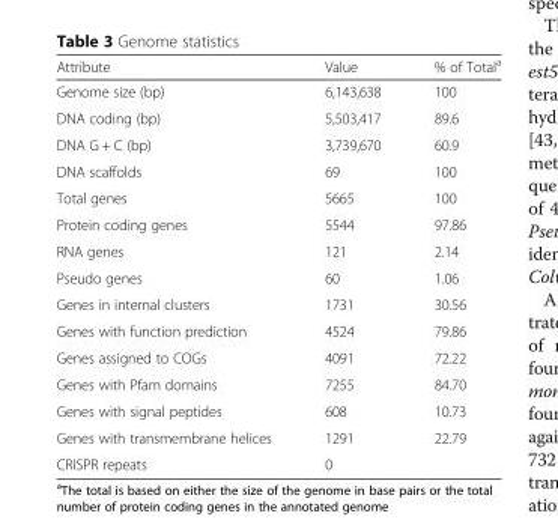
<table><thead><tr><td>Attribute</td><td>Value</td><td>% of Total<sup>a</sup></td></tr></thead><tbody><tr><td>Genome size (bp)</td><td>6,143,638</td><td>100</td></tr><tr><td>DNA coding (bp)</td><td>5,503,417</td><td>89.6</td></tr><tr><td>DNA G + C (bp)</td><td>3,739,670</td><td>60.9</td></tr><tr><td>DNA scaffolds</td><td>69</td><td>100</td></tr><tr><td>Total genes</td><td>5665</td><td>100</td></tr><tr><td>Protein coding genes</td><td>5544</td><td>97.86</td></tr><tr><td>RNA genes</td><td>121</td><td>2.14</td></tr><tr><td>Pseudo genes</td><td>60</td><td>1.06</td></tr><tr><td>Genes in internal clusters</td><td>1731</td><td>30.56</td></tr><tr><td>Genes with function prediction</td><td>4524</td><td>79.86</td></tr><tr><td>Genes assigned to COGs</td><td>4091</td><td>72.22</td></tr><tr><td>Genes with Pfam domains</td><td>7255</td><td>84.70</td></tr><tr><td>Genes with signal peptides</td><td>608</td><td>10.73</td></tr><tr><td>Genes with transmembrane helices</td><td>1291</td><td>22.79</td></tr><tr><td>CRISPR repeats</td><td>0</td><td></td></tr></tbody></table>